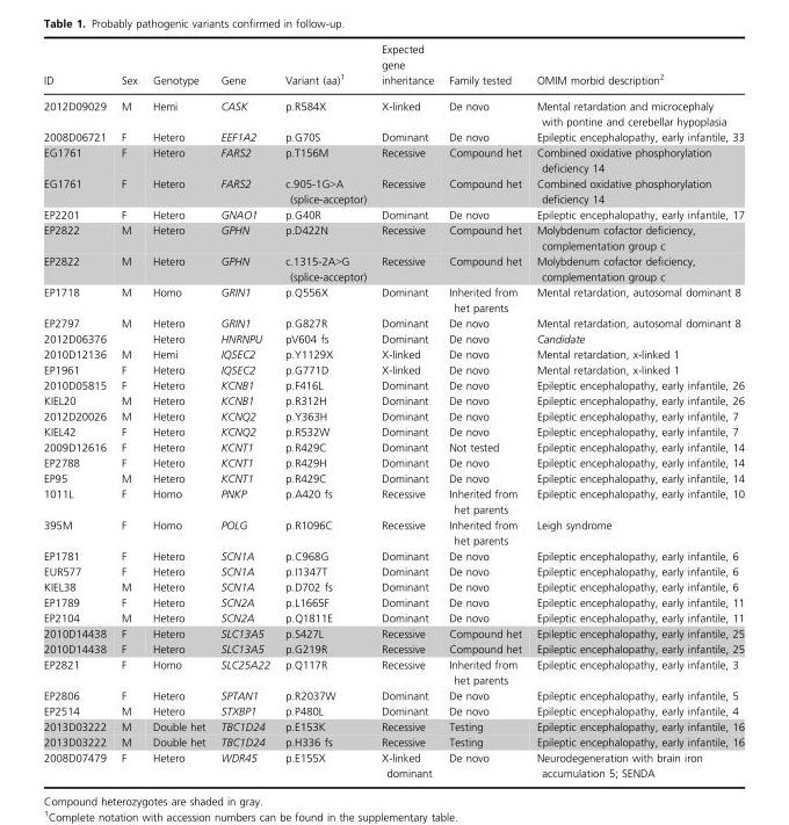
<table><thead><tr><td>ID</td><td>Sex</td><td>Genotype</td><td>Gene</td><td>Variant (aa)1</td><td>Expected gene inheritance</td><td>Family tested</td><td>OMIM morbid description2</td></tr></thead><tbody><tr><td>2012D09029</td><td>M</td><td>Hemi</td><td>CASK</td><td>p.R584X</td><td>X-linked</td><td>De novo</td><td>Mental retardation and microcephaly with pontine and cerebellar hypoplasia</td></tr><tr><td>2008D06721</td><td>F</td><td>Hetero</td><td>EEF1A2</td><td>p.G70S</td><td>Dominant</td><td>De novo</td><td>Epileptic encephalopathy, early infantile, 33</td></tr><tr><td>EG1761</td><td>F</td><td>Hetero</td><td>FARS2</td><td>p.T156M</td><td>Recessive</td><td>Compound het</td><td>Combined oxidative phosphorylation deficiency 14</td></tr><tr><td>EG1761</td><td>F</td><td>Hetero</td><td>FARS2</td><td>c.905-1G&gt;A (splice-acceptor)</td><td>Recessive</td><td>Compound het</td><td>Combined oxidative phosphorylation deficiency 14</td></tr><tr><td>EP2201</td><td>F</td><td>Hetero</td><td>GNAO1</td><td>p.G40R</td><td>Dominant</td><td>De novo</td><td>Epileptic encephalopathy, early infantile, 17</td></tr><tr><td>EP2822</td><td>M</td><td>Hetero</td><td>GPHN</td><td>p.D422N</td><td>Recessive</td><td>Compound het</td><td>Molybdenum cofactor deficiency, complementation group c</td></tr><tr><td>EP2822</td><td>M</td><td>Hetero</td><td>GPHN</td><td>c.1315-2A&gt;G (splice-acceptor)</td><td>Recessive</td><td>Compound het</td><td>Molybdenum cofactor deficiency, complementation group c</td></tr><tr><td>EP1718</td><td>M</td><td>Homo</td><td>GRIN1</td><td>p.Q556X</td><td>Dominant</td><td>Inherited from het parents</td><td>Mental retardation, autosomal dominant 8</td></tr><tr><td>EP2797</td><td>M</td><td>Hetero</td><td>GRIN1</td><td>p.G827R</td><td>Dominant</td><td>De novo</td><td>Mental retardation, autosomal dominant 8</td></tr><tr><td>2012D06376</td><td></td><td>Hetero</td><td>HNRNPU</td><td>pV604 fs</td><td>Dominant</td><td>De novo</td><td>Candidate</td></tr><tr><td>2010D12136</td><td>M</td><td>Hemi</td><td>IQSEC2</td><td>p.Y1129X</td><td>X-linked</td><td>De novo</td><td>Mental retardation, x-linked 1</td></tr><tr><td>EP1961</td><td>F</td><td>Hetero</td><td>IQSEC2</td><td>p.G771D</td><td>X-linked</td><td>De novo</td><td>Mental retardation, x-linked 1</td></tr><tr><td>2010D05815</td><td>F</td><td>Hetero</td><td>KCNB1</td><td>p.F416L</td><td>Dominant</td><td>De novo</td><td>Epileptic encephalopathy, early infantile, 26</td></tr><tr><td>KIEL20</td><td>M</td><td>Hetero</td><td>KCNB1</td><td>p.R312H</td><td>Dominant</td><td>De novo</td><td>Epileptic encephalopathy, early infantile, 26</td></tr><tr><td>2012D20026</td><td>M</td><td>Hetero</td><td>KCNQ2</td><td>p.Y363H</td><td>Dominant</td><td>De novo</td><td>Epileptic encephalopathy, early infantile, 7</td></tr><tr><td>KIEL42</td><td>F</td><td>Hetero</td><td>KCNQ2</td><td>p.R532W</td><td>Dominant</td><td>De novo</td><td>Epileptic encephalopathy, early infantile, 7</td></tr><tr><td>2009D12616</td><td>F</td><td>Hetero</td><td>KCNT1</td><td>p.R429C</td><td>Dominant</td><td>Not tested</td><td>Epileptic encephalopathy, early infantile, 14</td></tr><tr><td>EP2788</td><td>F</td><td>Hetero</td><td>KCNT1</td><td>p.R429H</td><td>Dominant</td><td>De novo</td><td>Epileptic encephalopathy, early infantile, 14</td></tr><tr><td>EP95</td><td>M</td><td>Hetero</td><td>KCNT1</td><td>p.R429C</td><td>Dominant</td><td>De novo</td><td>Epileptic encephalopathy, early infantile, 14</td></tr><tr><td>1011L</td><td>F</td><td>Homo</td><td>PNKP</td><td>p.A420 fs</td><td>Recessive</td><td>Inherited from het parents</td><td>Epileptic encephalopathy, early infantile, 10</td></tr><tr><td>395M</td><td>F</td><td>Homo</td><td>POLG</td><td>p.R1096C</td><td>Recessive</td><td>Inherited from het parents</td><td>Leigh syndrome</td></tr><tr><td>EP1781</td><td>F</td><td>Hetero</td><td>SCN1A</td><td>p.C968G</td><td>Dominant</td><td>De novo</td><td>Epileptic encephalopathy, early infantile, 6</td></tr><tr><td>EUR577</td><td>F</td><td>Hetero</td><td>SCN1A</td><td>p.I1347T</td><td>Dominant</td><td>De novo</td><td>Epileptic encephalopathy, early infantile, 6</td></tr><tr><td>KIEL38</td><td>M</td><td>Hetero</td><td>SCN1A</td><td>p.D702 fs</td><td>Dominant</td><td>De novo</td><td>Epileptic encephalopathy, early infantile, 6</td></tr><tr><td>EP1789</td><td>F</td><td>Hetero</td><td>SCN2A</td><td>p.L1665F</td><td>Dominant</td><td>De novo</td><td>Epileptic encephalopathy, early infantile, 11</td></tr><tr><td>EP2104</td><td>M</td><td>Hetero</td><td>SCN2A</td><td>p.Q1811E</td><td>Dominant</td><td>De novo</td><td>Epileptic encephalopathy, early infantile, 11</td></tr><tr><td>2010D14438</td><td>F</td><td>Hetero</td><td>SLC13A5</td><td>p.S427L</td><td>Recessive</td><td>Compound het</td><td>Epileptic encephalopathy, early infantile, 25</td></tr><tr><td>2010D14438</td><td>F</td><td>Hetero</td><td>SLC13A5</td><td>p.G219R</td><td>Recessive</td><td>Compound het</td><td>Epileptic encephalopathy, early infantile, 25</td></tr><tr><td>EP2821</td><td>F</td><td>Homo</td><td>SLC25A22</td><td>p.Q117R</td><td>Recessive</td><td>Inherited from het parents</td><td>Epileptic encephalopathy, early infantile, 3</td></tr><tr><td>EP2806</td><td>F</td><td>Hetero</td><td>SPTAN1</td><td>p.R2037W</td><td>Dominant</td><td>De novo</td><td>Epileptic encephalopathy, early infantile, 5</td></tr><tr><td>EP2514</td><td>M</td><td>Hetero</td><td>STXBP1</td><td>p.P480L</td><td>Dominant</td><td>De novo</td><td>Epileptic encephalopathy, early infantile, 4</td></tr><tr><td>2013D03222</td><td>M</td><td>Double het</td><td>TBC1D24</td><td>p.E153K</td><td>Recessive</td><td>Testing</td><td>Epileptic encephalopathy, early infantile, 16</td></tr><tr><td>2013D03222</td><td>M</td><td>Double het</td><td>TBC1D24</td><td>p.H336 fs</td><td>Recessive</td><td>Testing</td><td>Epileptic encephalopathy, early infantile, 16</td></tr><tr><td>2008D07479</td><td>F</td><td>Hetero</td><td>WDR45</td><td>p.E155X</td><td>X-linked dominant</td><td>De novo</td><td>Neurodegeneration with brain iron accumulation 5; SENDA</td></tr></tbody></table>